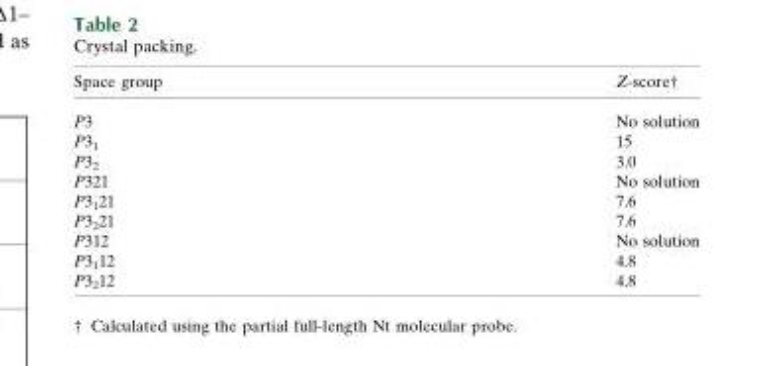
<table><thead><tr><td>Space group</td><td>Z-score†</td></tr></thead><tbody><tr><td>P3</td><td>No solution</td></tr><tr><td>P3<sub>1</sub></td><td>15</td></tr><tr><td>P3<sub>2</sub></td><td>3.0</td></tr><tr><td>P321</td><td>No solution</td></tr><tr><td>P3<sub>1</sub>21</td><td>7.6</td></tr><tr><td>P3<sub>2</sub>21</td><td>7.6</td></tr><tr><td>P312</td><td>No solution</td></tr><tr><td>P3<sub>1</sub>12</td><td>4.8</td></tr><tr><td>P3<sub>2</sub>12</td><td>4.8</td></tr></tbody></table>